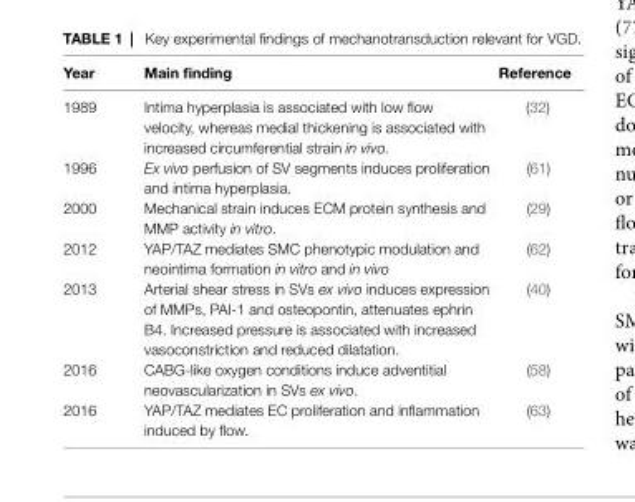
<table><thead><tr><td>Year</td><td>Main finding</td><td>Reference</td></tr></thead><tbody><tr><td>1989</td><td>Intima hyperplasia is associated with low flow velocity, whereas medial thickening is associated with increased circumferential strain in vivo.</td><td>(32)</td></tr><tr><td>1996</td><td>Ex vivo perfusion of SV segments induces proliferation and intima hyperplasia.</td><td>(61)</td></tr><tr><td>2000</td><td>Mechanical strain induces ECM protein synthesis and MMP activity in vitro.</td><td>(29)</td></tr><tr><td>2012</td><td>YAP/TAZ mediates SMC phenotypic modulation and neointima formation in vitro and in vivo</td><td>(62)</td></tr><tr><td>2013</td><td>Arterial shear stress in SVs ex vivo induces expression of MMPs, PAI-1 and osteopontin, attenuates ephrin B4. Increased pressure is associated with increased vasoconstriction and reduced dilatation.</td><td>(40)</td></tr><tr><td>2016</td><td>CABG-like oxygen conditions induce adventitial neovascularization in SVs ex vivo.</td><td>(58)</td></tr><tr><td>2016</td><td>YAP/TAZ mediates EC proliferation and inflammation induced by flow.</td><td>(63)</td></tr></tbody></table>